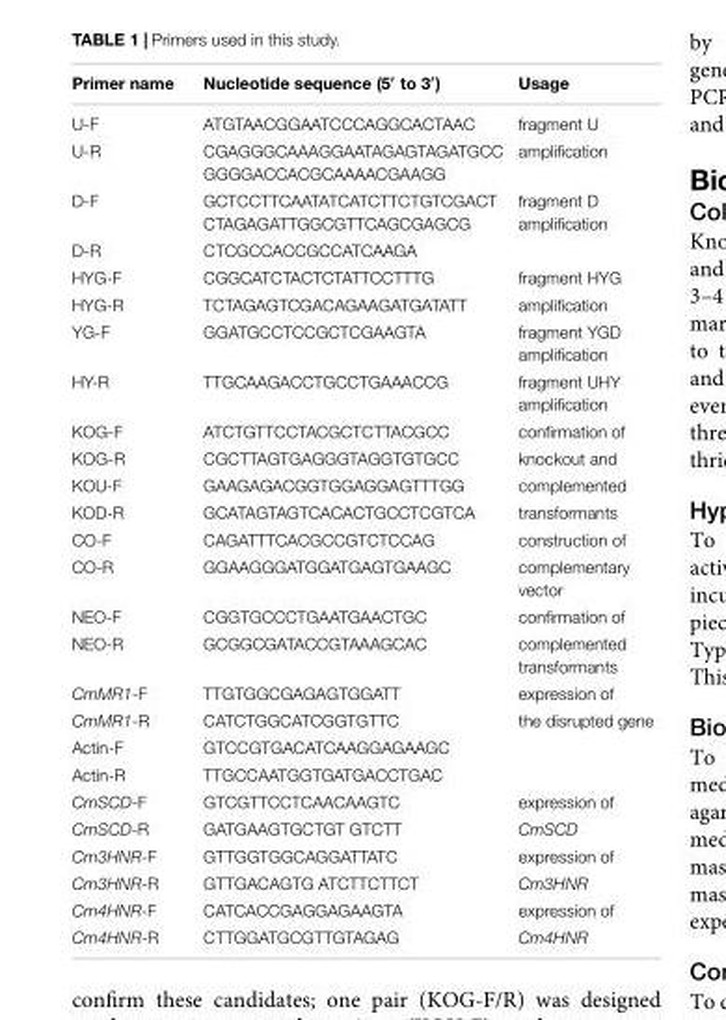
<table><thead><tr><td>Primer name</td><td>Nucleotide sequence (5′ to 3′)</td><td>Usage</td></tr></thead><tbody><tr><td>U-F</td><td>ATGTAACGGAATCCCAGGCACTAAC</td><td>fragment U</td></tr><tr><td>U-R</td><td>CGAGGGCAAAGGAATAGAGTAGATGCC GGGGACCACGCAAAACGAAGG</td><td>amplification</td></tr><tr><td>D-F</td><td>GCTCCTTCAATATCATCTTCTGTCGACT CTAGAGATTGGCGTTCAGCGAGCG</td><td>fragment D amplification</td></tr><tr><td>D-R</td><td>CTCGCCACCGCCATCAAGA</td><td></td></tr><tr><td>HYG-F</td><td>CGGCATCTACTCTATTCCTTTG</td><td>fragment HYG</td></tr><tr><td>HYG-R</td><td>TCTAGAGTCGACAGAAGATGATATT</td><td>amplification</td></tr><tr><td>YG-F</td><td>GGATGCCTCCGCTCGAAGTA</td><td>fragment YGD amplification</td></tr><tr><td>HY-R</td><td>TTGCAAGACCTGCCTGAAACCG</td><td>fragment UHY amplification</td></tr><tr><td>KOG-F</td><td>ATCTGTTCCTACGCTCTTACGCC</td><td>confirmation of</td></tr><tr><td>KOG-R</td><td>CGCTTAGTGAGGGTAGGTGTGCC</td><td>knockout and</td></tr><tr><td>KOU-F</td><td>GAAGAGACGGTGGAGGAGTTTGG</td><td>complemented</td></tr><tr><td>KOD-R</td><td>GCATAGTAGTCACACTGCCTCGTCA</td><td>transformants</td></tr><tr><td>CO-F</td><td>CAGATTTCACGCCGTCTCCAG</td><td>construction of</td></tr><tr><td>CO-R</td><td>GGAAGGGATGGATGAGTGAAGC</td><td>complementary vector</td></tr><tr><td>NEO-F</td><td>CGGTGCCCTGAATGAACTGC</td><td>confirmation of</td></tr><tr><td>NEO-R</td><td>GCGGCGATACCGTAAAGCAC</td><td>complemented transformants</td></tr><tr><td>CmMR1-F</td><td>TTGTGGCGAGAGTGGATT</td><td>expression of</td></tr><tr><td>CmMR1-R</td><td>CATCTGGCATCGGTGTTC</td><td>the disrupted gene</td></tr><tr><td>Actin-F</td><td>GTCCGTGACATCAAGGAGAAGC</td><td></td></tr><tr><td>Actin-R</td><td>TTGCCAATGGTGATGACCTGAC</td><td></td></tr><tr><td>CmSCD-F</td><td>GTCGTTCCTCAACAAGTC</td><td>expression of</td></tr><tr><td>CmSCD-R</td><td>GATGAAGTGCTGT GTCTT</td><td>CmSCD</td></tr><tr><td>Cm3HNR-F</td><td>GTTGGTGGCAGGATTATC</td><td>expression of</td></tr><tr><td>Cm3HNR-R</td><td>GTTGACAGTG ATCTTCTTCT</td><td>Cm3HNR</td></tr><tr><td>Cm4HNR-F</td><td>CATCACCGAGGAGAAGTA</td><td>expression of</td></tr><tr><td>Cm4HNR-R</td><td>CTTGGATGCGTTGTAGAG</td><td>Cm4HNR</td></tr></tbody></table>